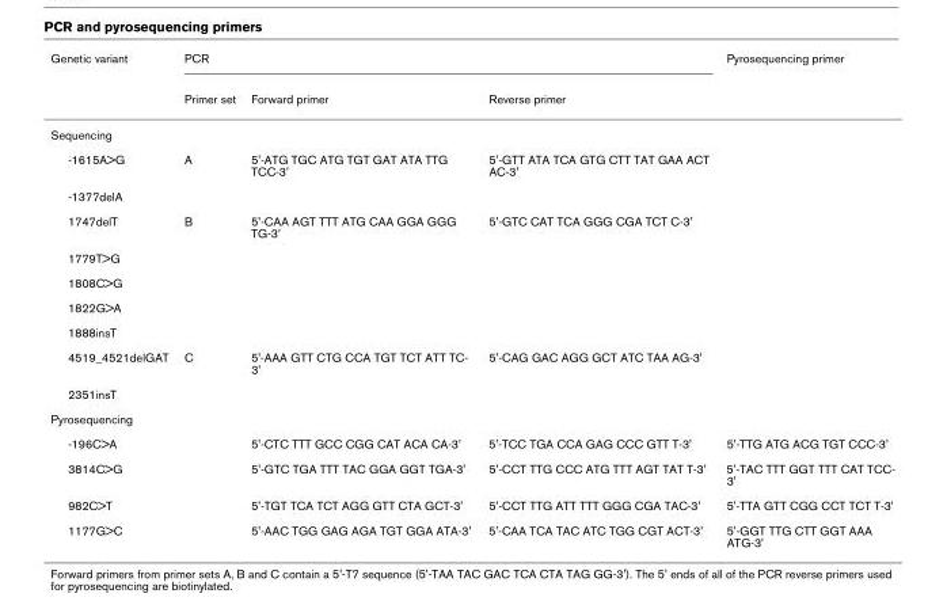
<table><thead><tr><td rowspan="2">Genetic variant</td><td colspan="3">PCR</td><td rowspan="2">Pyrosequencing primer</td></tr><tr><td>Primer set</td><td>Forward primer</td><td>Reverse primer</td></tr></thead><tbody><tr><td colspan="5">Sequencing</td></tr><tr><td>-1615A&gt;G</td><td>A</td><td>5&#x27;-ATG TGC ATG TGT GAT ATA TTG TCC-3&#x27;</td><td>5&#x27;-GTT ATA TCA GTG CTT TAT GAA ACT AC-3&#x27;</td><td></td></tr><tr><td colspan="5">-1377delA</td></tr><tr><td>1747delT</td><td>B</td><td>5&#x27;-CAA AGT TTT ATG CAA GGA GGG TG-3&#x27;</td><td>5&#x27;-GTC CAT TCA GGG CGA TCT C-3&#x27;</td><td></td></tr><tr><td colspan="5">1779T&gt;G</td></tr><tr><td colspan="5">1808C&gt;G</td></tr><tr><td colspan="5">1822G&gt;A</td></tr><tr><td colspan="5">1888insT</td></tr><tr><td>4519_4521delGAT</td><td>C</td><td>5&#x27;-AAA GTT CTG CCA TGT TCT ATT TC- 3&#x27;</td><td>5&#x27;-CAG GAC AGG GCT ATC TAA AG-3&#x27;</td><td></td></tr><tr><td colspan="5">2351insT</td></tr><tr><td colspan="5">Pyrosequencing</td></tr><tr><td>-196C&gt;A</td><td></td><td>5&#x27;-CTC TTT GCC CGG CAT ACA CA-3&#x27;</td><td>5&#x27;-TCC TGA CCA GAG CCC GTT T-3&#x27;</td><td>5&#x27;-TTG ATG ACG TGT CCC-3&#x27;</td></tr><tr><td>3814C&gt;G</td><td></td><td>5&#x27;-GTC TGA TTT TAC GGA GGT TGA-3&#x27;</td><td>5&#x27;-CCT TTG CCC ATG TTT AGT TAT T-3&#x27;</td><td>5&#x27;-TAC TTT GGT TTT CAT TCC- 3&#x27;</td></tr><tr><td>982C&gt;T</td><td></td><td>5&#x27;-TGT TCA TCT AGG GTT CTA GCT-3&#x27;</td><td>5&#x27;-CCT TTG ATT TTT GGG CGA TAC-3&#x27;</td><td>5&#x27;-TTA GTT CGG CCT TCT T-3&#x27;</td></tr><tr><td>1177G&gt;C</td><td></td><td>5&#x27;-AAC TGG GAG AGA TGT GGA ATA-3&#x27;</td><td>5&#x27;-CAA TCA TAC ATC TGG CGT ACT-3&#x27;</td><td>5&#x27;-GGT TTG CTT GGT AAA ATG-3&#x27;</td></tr></tbody></table>